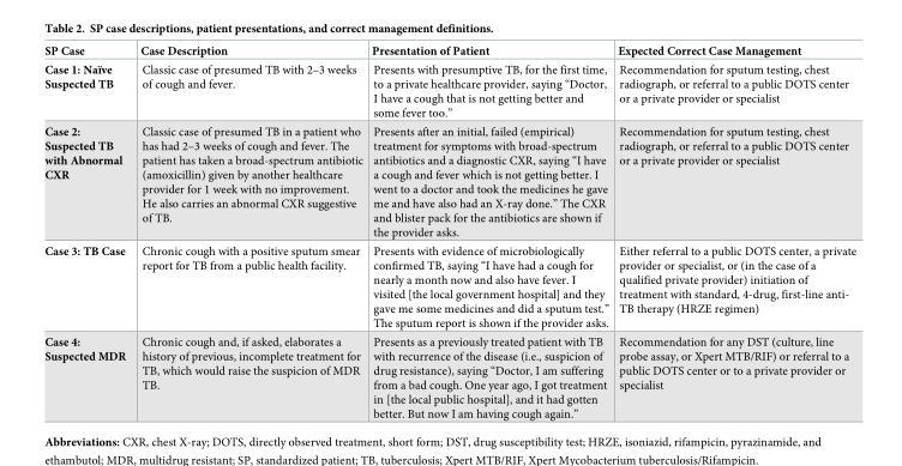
<table><thead><tr><td>SP Case</td><td>Case Description</td><td>Presentation of Patient</td><td>Expected Correct Case Management</td></tr></thead><tbody><tr><td>Case 1: Naïve Suspected TB</td><td>Classic case of presumed TB with 2–3 weeks of cough and fever.</td><td>Presents with presumptive TB, for the first time, to a private healthcare provider, saying “Doctor, I have a cough that is not getting better and some fever too.”</td><td>Recommendation for sputum testing, chest radiograph, or referral to a public DOTS center or a private provider or specialist</td></tr><tr><td>Case 2: Suspected TB with Abnormal CXR</td><td>Classic case of presumed TB in a patient who has had 2–3 weeks of cough and fever. The patient has taken a broad-spectrum antibiotic (amoxicillin) given by another healthcare provider for 1 week with no improvement. He also carries an abnormal CXR suggestive of TB.</td><td>Presents after an initial, failed (empirical) treatment for symptoms with broad-spectrum antibiotics and a diagnostic CXR, saying “I have a cough and fever which is not getting better. I went to a doctor and took the medicines he gave me and have also had an X-ray done.” The CXR and blister pack for the antibiotics are shown if the provider asks.</td><td>Recommendation for sputum testing, chest radiograph, or referral to a public DOTS center or a private provider or specialist</td></tr><tr><td>Case 3: TB Case</td><td>Chronic cough with a positive sputum smear report for TB from a public health facility.</td><td>Presents with evidence of microbiologically confirmed TB, saying “I have had a cough for nearly a month now and also have fever. I visited [the local government hospital] and they gave me some medicines and did a sputum test.” The sputum report is shown if the provider asks.</td><td>Either referral to a public DOTS center, a private provider or specialist, or (in the case of a qualified private provider) initiation of treatment with standard, 4-drug, first-line anti- TB therapy (HRZE regimen)</td></tr><tr><td>Case 4: Suspected MDR</td><td>Chronic cough and, if asked, elaborates a history of previous, incomplete treatment for TB, which would raise the suspicion of MDR TB.</td><td>Presents as a previously treated patient with TB with recurrence of the disease (i.e., suspicion of drug resistance), saying “Doctor, I am suffering from a bad cough. One year ago, I got treatment in [the local public hospital], and it had gotten better. But now I am having cough again.”</td><td>Recommendation for any DST (culture, line probe assay, or Xpert MTB/RIF) or referral to a public DOTS center or to a private provider or specialist</td></tr></tbody></table>